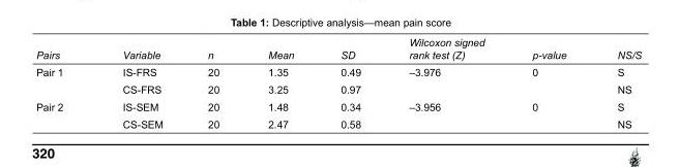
<table><tbody><tr><td>Pairs</td><td>Variable</td><td>n</td><td>Mean</td><td>SD</td><td>Wilcoxon signed rank test (Z)</td><td>p-value</td><td>NS/S</td></tr><tr><td rowspan="2">Pair 1</td><td>IS-FRS</td><td>20</td><td>1.35</td><td>0.49</td><td>–3.976</td><td>0</td><td>S</td></tr><tr><td>CS-FRS</td><td>20</td><td>3.25</td><td>0.97</td><td></td><td></td><td>NS</td></tr><tr><td rowspan="2">Pair 2</td><td>IS-SEM</td><td>20</td><td>1.48</td><td>0.34</td><td>–3.956</td><td>0</td><td>S</td></tr><tr><td>CS-SEM</td><td>20</td><td>2.47</td><td>0.58</td><td></td><td></td><td>NS</td></tr></tbody></table>